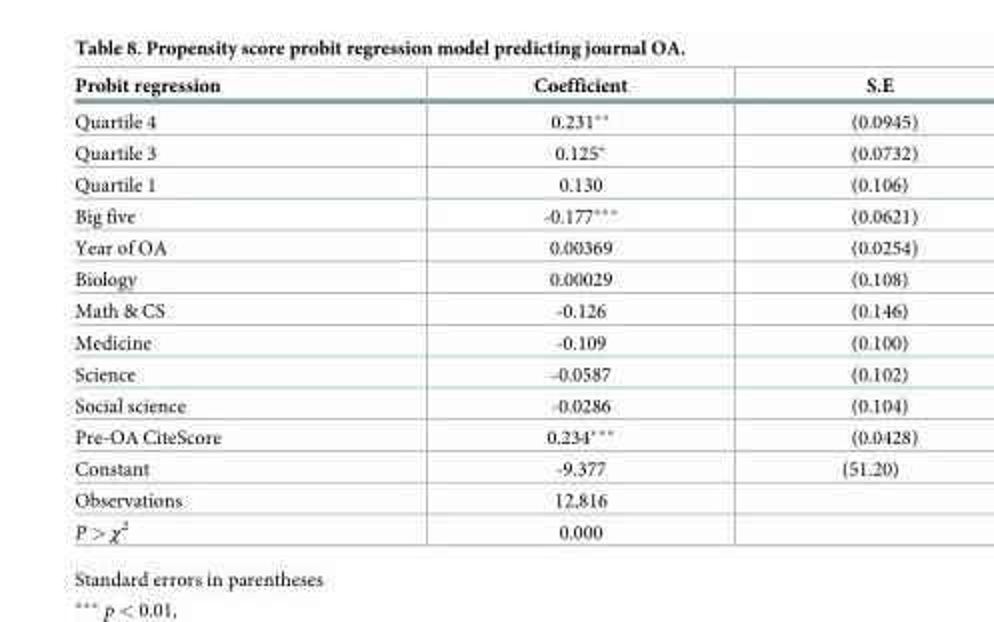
<table><thead><tr><td>Probit regression</td><td>Coefficient</td><td>S.E</td></tr></thead><tbody><tr><td>Quartile 4</td><td>0.231**</td><td>(0.0945)</td></tr><tr><td>Quartile 3</td><td>0.125*</td><td>(0.0732)</td></tr><tr><td>Quartile 1</td><td>0.130</td><td>(0.106)</td></tr><tr><td>Big five</td><td>-0.177***</td><td>(0.0621)</td></tr><tr><td>Year of OA</td><td>0.00369</td><td>(0.0254)</td></tr><tr><td>Biology</td><td>0.00029</td><td>(0.108)</td></tr><tr><td>Math &amp; CS</td><td>-0.126</td><td>(0.146)</td></tr><tr><td>Medicine</td><td>-0.109</td><td>(0.100)</td></tr><tr><td>Science</td><td>-0.0587</td><td>(0.102)</td></tr><tr><td>Social science</td><td>-0.0286</td><td>(0.104)</td></tr><tr><td>Pre-OA CiteScore</td><td>0.234***</td><td>(0.0428)</td></tr><tr><td>Constant</td><td>-9.377</td><td>(51.20)</td></tr><tr><td>Observations</td><td>12,816</td><td></td></tr><tr><td>P &gt; χ<sup>2</sup></td><td>0.000</td><td></td></tr></tbody></table>